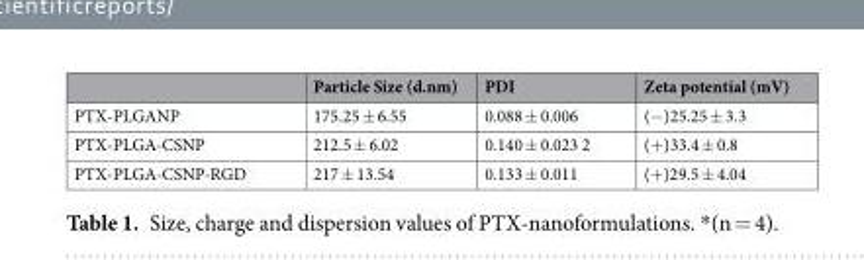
<table><thead><tr><td></td><td>Particle Size (d.nm)</td><td>PDI</td><td>Zeta potential (mV)</td></tr></thead><tbody><tr><td>PTX-PLGANP</td><td>175.25 ± 6.55</td><td>0.088 ± 0.006</td><td>(−)25.25 ± 3.3</td></tr><tr><td>PTX-PLGA-CSNP</td><td>212.5 ± 6.02</td><td>0.140 ± 0.023 2</td><td>(+)33.4 ± 0.8</td></tr><tr><td>PTX-PLGA-CSNP-RGD</td><td>217 ± 13.54</td><td>0.133 ± 0.011</td><td>(+)29.5 ± 4.04</td></tr></tbody></table>